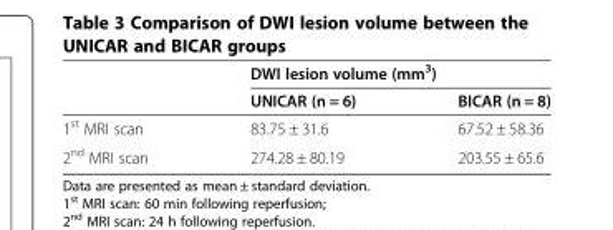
<table><thead><tr><td rowspan="2"></td><td colspan="2">DWI lesion volume (mm<sup>3</sup>)</td></tr><tr><td>UNICAR (n = 6)</td><td>BICAR (n = 8)</td></tr></thead><tbody><tr><td>1<sup>st</sup> MRI scan</td><td>83.75 ± 31.6</td><td>67.52 ± 58.36</td></tr><tr><td>2<sup>nd</sup> MRI scan</td><td>274.28 ± 80.19</td><td>203.55 ± 65.6</td></tr></tbody></table>